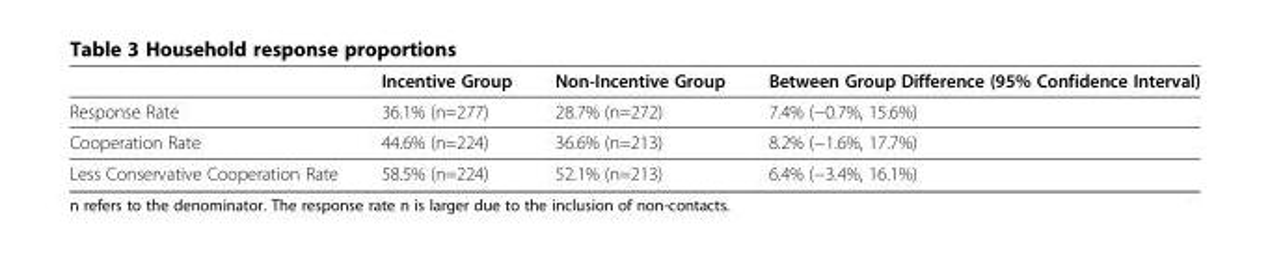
<table><thead><tr><td></td><td>Incentive Group</td><td>Non-Incentive Group</td><td>Between Group Difference (95% Confidence Interval)</td></tr></thead><tbody><tr><td>Response Rate</td><td>36.1% (n=277)</td><td>28.7% (n=272)</td><td>7.4% (−0.7%, 15.6%)</td></tr><tr><td>Cooperation Rate</td><td>44.6% (n=224)</td><td>36.6% (n=213)</td><td>8.2% (−1.6%, 17.7%)</td></tr><tr><td>Less Conservative Cooperation Rate</td><td>58.5% (n=224)</td><td>52.1% (n=213)</td><td>6.4% (−3.4%, 16.1%)</td></tr></tbody></table>